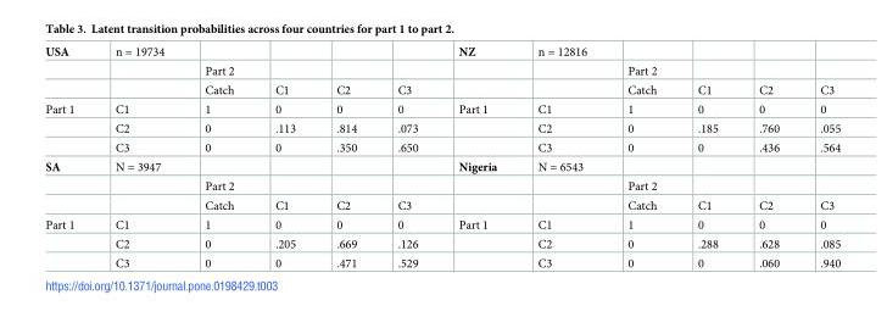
<table><tbody><tr><td rowspan="3">USA</td><td>n = 19734</td><td></td><td></td><td></td><td></td><td>NZ</td><td>n = 12816</td><td></td><td></td><td></td><td></td></tr><tr><td></td><td>Part 2</td><td></td><td></td><td></td><td></td><td></td><td>Part 2</td><td></td><td></td><td></td></tr><tr><td></td><td>Catch</td><td>C1</td><td>C2</td><td>C3</td><td></td><td></td><td>Catch</td><td>C1</td><td>C2</td><td>C3</td></tr><tr><td rowspan="3">Part 1</td><td>C1</td><td>1</td><td>0</td><td>0</td><td>0</td><td>Part 1</td><td>C1</td><td>1</td><td>0</td><td>0</td><td>0</td></tr><tr><td>C2</td><td>0</td><td>.113</td><td>.814</td><td>.073</td><td></td><td>C2</td><td>0</td><td>.185</td><td>.760</td><td>.055</td></tr><tr><td>C3</td><td>0</td><td>0</td><td>.350</td><td>.650</td><td></td><td>C3</td><td>0</td><td>0</td><td>.436</td><td>.564</td></tr><tr><td rowspan="3">SA</td><td>N = 3947</td><td></td><td></td><td></td><td></td><td>Nigeria</td><td>N = 6543</td><td></td><td></td><td></td><td></td></tr><tr><td></td><td>Part 2</td><td></td><td></td><td></td><td></td><td></td><td>Part 2</td><td></td><td></td><td></td></tr><tr><td></td><td>Catch</td><td>C1</td><td>C2</td><td>C3</td><td></td><td></td><td>Catch</td><td>C1</td><td>C2</td><td>C3</td></tr><tr><td rowspan="3">Part 1</td><td>C1</td><td>1</td><td>0</td><td>0</td><td>0</td><td>Part 1</td><td>C1</td><td>1</td><td>0</td><td>0</td><td>0</td></tr><tr><td>C2</td><td>0</td><td>.205</td><td>.669</td><td>.126</td><td></td><td>C2</td><td>0</td><td>.288</td><td>.628</td><td>.085</td></tr><tr><td>C3</td><td>0</td><td>0</td><td>.471</td><td>.529</td><td></td><td>C3</td><td>0</td><td>0</td><td>.060</td><td>.940</td></tr></tbody></table>